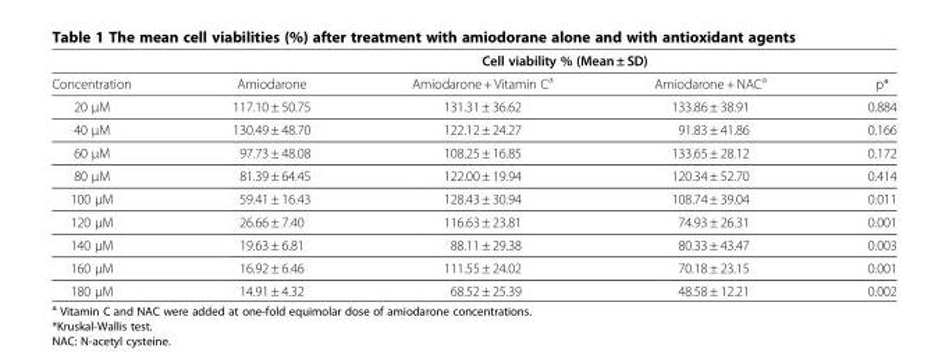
<table><thead><tr><td rowspan="2">Concentration</td><td colspan="4">Cell viability % (Mean ± SD)</td></tr><tr><td>Amiodarone</td><td>Amiodarone + Vitamin C<sup>a</sup></td><td>Amiodarone + NAC<sup>a</sup></td><td>p*</td></tr></thead><tbody><tr><td>20 μM</td><td>117.10 ± 50.75</td><td>131.31 ± 36.62</td><td>133.86 ± 38.91</td><td>0.884</td></tr><tr><td>40 μM</td><td>130.49 ± 48.70</td><td>122.12 ± 24.27</td><td>91.83 ± 41.86</td><td>0.166</td></tr><tr><td>60 μM</td><td>97.73 ± 48.08</td><td>108.25 ± 16.85</td><td>133.65 ± 28.12</td><td>0.172</td></tr><tr><td>80 μM</td><td>81.39 ± 64.45</td><td>122.00 ± 19.94</td><td>120.34 ± 52.70</td><td>0.414</td></tr><tr><td>100 μM</td><td>59.41 ± 16.43</td><td>128.43 ± 30.94</td><td>108.74 ± 39.04</td><td>0.011</td></tr><tr><td>120 μM</td><td>26.66 ± 7.40</td><td>116.63 ± 23.81</td><td>74.93 ± 26.31</td><td>0.001</td></tr><tr><td>140 μM</td><td>19.63 ± 6.81</td><td>88.11 ± 29.38</td><td>80.33 ± 43.47</td><td>0.003</td></tr><tr><td>160 μM</td><td>16.92 ± 6.46</td><td>111.55 ± 24.02</td><td>70.18 ± 23.15</td><td>0.001</td></tr><tr><td>180 μM</td><td>14.91 ± 4.32</td><td>68.52 ± 25.39</td><td>48.58 ± 12.21</td><td>0.002</td></tr></tbody></table>